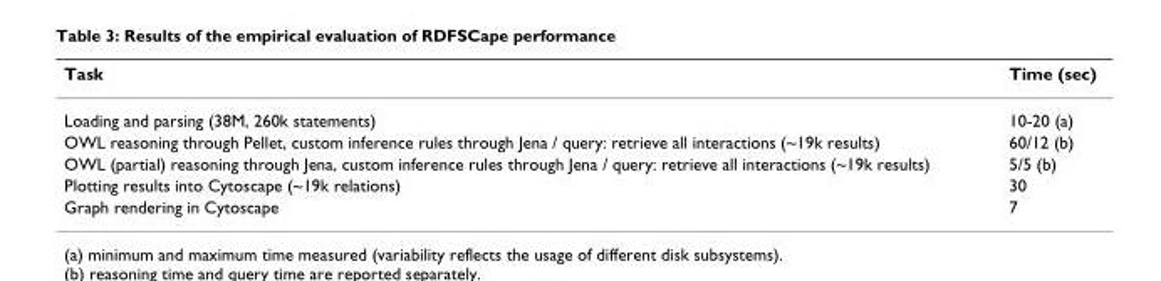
<table><thead><tr><td>Task</td><td>Time (sec)</td></tr></thead><tbody><tr><td>Loading and parsing (38M, 260k statements)</td><td>10-20 (a)</td></tr><tr><td>OWL reasoning through Pellet, custom inference rules through Jena / query: retrieve all interactions (~19k results)</td><td>60/12 (b)</td></tr><tr><td>OWL (partial) reasoning through Jena, custom inference rules through Jena / query: retrieve all interactions (~19k results)</td><td>5/5 (b)</td></tr><tr><td>Plotting results into Cytoscape (~19k relations)</td><td>30</td></tr><tr><td>Graph rendering in Cytoscape</td><td>7</td></tr></tbody></table>